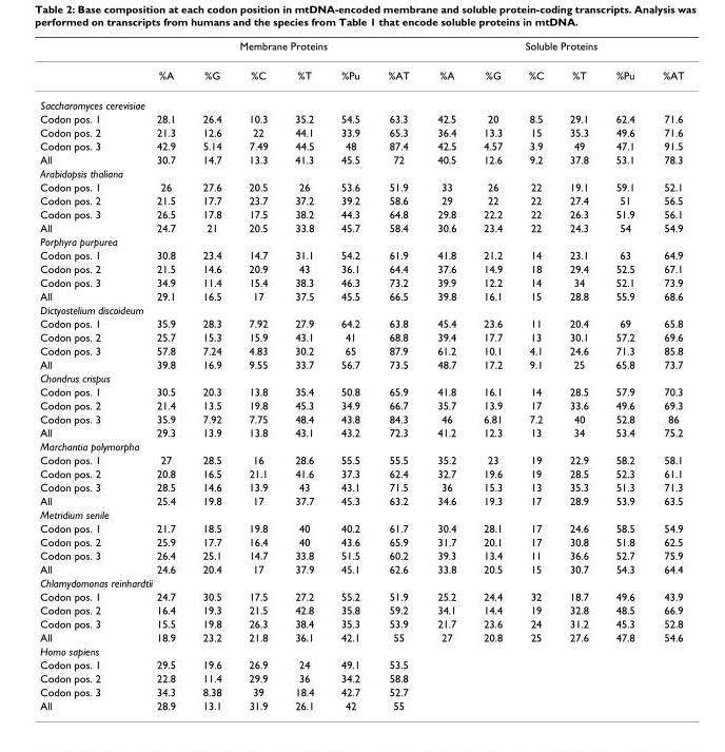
<table><thead><tr><td rowspan="2"></td><td colspan="6">Membrane Proteins</td><td colspan="6">Soluble Proteins</td></tr><tr><td>%A</td><td>%G</td><td>%C</td><td>%T</td><td>%Pu</td><td>%AT</td><td>%A</td><td>%G</td><td>%C</td><td>%T</td><td>%Pu</td><td>%AT</td></tr></thead><tbody><tr><td colspan="13">Saccharomyces cerevisiae</td></tr><tr><td>Codon pos. 1</td><td>28.1</td><td>26.4</td><td>10.3</td><td>35.2</td><td>54.5</td><td>63.3</td><td>42.5</td><td>20</td><td>8.5</td><td>29.1</td><td>62.4</td><td>71.6</td></tr><tr><td>Codon pos. 2</td><td>21.3</td><td>12.6</td><td>22</td><td>44.1</td><td>33.9</td><td>65.3</td><td>36.4</td><td>13.3</td><td>15</td><td>35.3</td><td>49.6</td><td>71.6</td></tr><tr><td>Codon pos. 3</td><td>42.9</td><td>5.14</td><td>7.49</td><td>44.5</td><td>48</td><td>87.4</td><td>42.5</td><td>4.57</td><td>3.9</td><td>49</td><td>47.1</td><td>91.5</td></tr><tr><td>All</td><td>30.7</td><td>14.7</td><td>13.3</td><td>41.3</td><td>45.5</td><td>72</td><td>40.5</td><td>12.6</td><td>9.2</td><td>37.8</td><td>53.1</td><td>78.3</td></tr><tr><td colspan="13">Arabidopsis thaliana</td></tr><tr><td>Codon pos. 1</td><td>26</td><td>27.6</td><td>20.5</td><td>26</td><td>53.6</td><td>51.9</td><td>33</td><td>26</td><td>22</td><td>19.1</td><td>59.1</td><td>52.1</td></tr><tr><td>Codon pos. 2</td><td>21.5</td><td>17.7</td><td>23.7</td><td>37.2</td><td>39.2</td><td>58.6</td><td>29</td><td>22</td><td>22</td><td>27.4</td><td>51</td><td>56.5</td></tr><tr><td>Codon pos. 3</td><td>26.5</td><td>17.8</td><td>17.5</td><td>38.2</td><td>44.3</td><td>64.8</td><td>29.8</td><td>22.2</td><td>22</td><td>26.3</td><td>51.9</td><td>56.1</td></tr><tr><td>All</td><td>24.7</td><td>21</td><td>20.5</td><td>33.8</td><td>45.7</td><td>58.4</td><td>30.6</td><td>23.4</td><td>22</td><td>24.3</td><td>54</td><td>54.9</td></tr><tr><td colspan="13">Porphyra purpurea</td></tr><tr><td>Codon pos. 1</td><td>30.8</td><td>23.4</td><td>14.7</td><td>31.1</td><td>54.2</td><td>61.9</td><td>41.8</td><td>21.2</td><td>14</td><td>23.1</td><td>63</td><td>64.9</td></tr><tr><td>Codon pos. 2</td><td>21.5</td><td>14.6</td><td>20.9</td><td>43</td><td>36.1</td><td>64.4</td><td>37.6</td><td>14.9</td><td>18</td><td>29.4</td><td>52.5</td><td>67.1</td></tr><tr><td>Codon pos. 3</td><td>34.9</td><td>11.4</td><td>15.4</td><td>38.3</td><td>46.3</td><td>73.2</td><td>39.9</td><td>12.2</td><td>14</td><td>34</td><td>52.1</td><td>73.9</td></tr><tr><td>All</td><td>29.1</td><td>16.5</td><td>17</td><td>37.5</td><td>45.5</td><td>66.5</td><td>39.8</td><td>16.1</td><td>15</td><td>28.8</td><td>55.9</td><td>68.6</td></tr><tr><td colspan="13">Dictyostelium discoideum</td></tr><tr><td>Codon pos. 1</td><td>35.9</td><td>28.3</td><td>7.92</td><td>27.9</td><td>64.2</td><td>63.8</td><td>45.4</td><td>23.6</td><td>11</td><td>20.4</td><td>69</td><td>65.8</td></tr><tr><td>Codon pos. 2</td><td>25.7</td><td>15.3</td><td>15.9</td><td>43.1</td><td>41</td><td>68.8</td><td>39.4</td><td>17.7</td><td>13</td><td>30.1</td><td>57.2</td><td>69.6</td></tr><tr><td>Codon pos. 3</td><td>57.8</td><td>7.24</td><td>4.83</td><td>30.2</td><td>65</td><td>87.9</td><td>61.2</td><td>10.1</td><td>4.1</td><td>24.6</td><td>71.3</td><td>85.8</td></tr><tr><td>All</td><td>39.8</td><td>16.9</td><td>9.55</td><td>33.7</td><td>56.7</td><td>73.5</td><td>48.7</td><td>17.2</td><td>9.1</td><td>25</td><td>65.8</td><td>73.7</td></tr><tr><td colspan="13">Chondrus crispus</td></tr><tr><td>Codon pos. 1</td><td>30.5</td><td>20.3</td><td>13.8</td><td>35.4</td><td>50.8</td><td>65.9</td><td>41.8</td><td>16.1</td><td>14</td><td>28.5</td><td>57.9</td><td>70.3</td></tr><tr><td>Codon pos. 2</td><td>21.4</td><td>13.5</td><td>19.8</td><td>45.3</td><td>34.9</td><td>66.7</td><td>35.7</td><td>13.9</td><td>17</td><td>33.6</td><td>49.6</td><td>69.3</td></tr><tr><td>Codon pos. 3</td><td>35.9</td><td>7.92</td><td>7.75</td><td>48.4</td><td>43.8</td><td>84.3</td><td>46</td><td>6.81</td><td>7.2</td><td>40</td><td>52.8</td><td>86</td></tr><tr><td>All</td><td>29.3</td><td>13.9</td><td>13.8</td><td>43.1</td><td>43.2</td><td>72.3</td><td>41.2</td><td>12.3</td><td>13</td><td>34</td><td>53.4</td><td>75.2</td></tr><tr><td colspan="13">Marchantia polymorpha</td></tr><tr><td>Codon pos. 1</td><td>27</td><td>28.5</td><td>16</td><td>28.6</td><td>55.5</td><td>55.5</td><td>35.2</td><td>23</td><td>19</td><td>22.9</td><td>58.2</td><td>58.1</td></tr><tr><td>Codon pos. 2</td><td>20.8</td><td>16.5</td><td>21.1</td><td>41.6</td><td>37.3</td><td>62.4</td><td>32.7</td><td>19.6</td><td>19</td><td>28.5</td><td>52.3</td><td>61.1</td></tr><tr><td>Codon pos. 3</td><td>28.5</td><td>14.6</td><td>13.9</td><td>43</td><td>43.1</td><td>71.5</td><td>36</td><td>15.3</td><td>13</td><td>35.3</td><td>51.3</td><td>71.3</td></tr><tr><td>All</td><td>25.4</td><td>19.8</td><td>17</td><td>37.7</td><td>45.3</td><td>63.2</td><td>34.6</td><td>19.3</td><td>17</td><td>28.9</td><td>53.9</td><td>63.5</td></tr><tr><td colspan="13">Metridium senile</td></tr><tr><td>Codon pos. 1</td><td>21.7</td><td>18.5</td><td>19.8</td><td>40</td><td>40.2</td><td>61.7</td><td>30.4</td><td>28.1</td><td>17</td><td>24.6</td><td>58.5</td><td>54.9</td></tr><tr><td>Codon pos. 2</td><td>25.9</td><td>17.7</td><td>16.4</td><td>40</td><td>43.6</td><td>65.9</td><td>31.7</td><td>20.1</td><td>17</td><td>30.8</td><td>51.8</td><td>62.5</td></tr><tr><td>Codon pos. 3</td><td>26.4</td><td>25.1</td><td>14.7</td><td>33.8</td><td>51.5</td><td>60.2</td><td>39.3</td><td>13.4</td><td>11</td><td>36.6</td><td>52.7</td><td>75.9</td></tr><tr><td>All</td><td>24.6</td><td>20.4</td><td>17</td><td>37.9</td><td>45.1</td><td>62.6</td><td>33.8</td><td>20.5</td><td>15</td><td>30.7</td><td>54.3</td><td>64.4</td></tr><tr><td colspan="13">Chlamydomonas reinhardtii</td></tr><tr><td>Codon pos. 1</td><td>24.7</td><td>30.5</td><td>17.5</td><td>27.2</td><td>55.2</td><td>51.9</td><td>25.2</td><td>24.4</td><td>32</td><td>18.7</td><td>49.6</td><td>43.9</td></tr><tr><td>Codon pos. 2</td><td>16.4</td><td>19.3</td><td>21.5</td><td>42.8</td><td>35.8</td><td>59.2</td><td>34.1</td><td>14.4</td><td>19</td><td>32.8</td><td>48.5</td><td>66.9</td></tr><tr><td>Codon pos. 3</td><td>15.5</td><td>19.8</td><td>26.3</td><td>38.4</td><td>35.3</td><td>53.9</td><td>21.7</td><td>23.6</td><td>24</td><td>31.2</td><td>45.3</td><td>52.8</td></tr><tr><td>All</td><td>18.9</td><td>23.2</td><td>21.8</td><td>36.1</td><td>42.1</td><td>55</td><td>27</td><td>20.8</td><td>25</td><td>27.6</td><td>47.8</td><td>54.6</td></tr><tr><td colspan="13">Homo sapiens</td></tr><tr><td>Codon pos. 1</td><td>29.5</td><td>19.6</td><td>26.9</td><td>24</td><td>49.1</td><td>53.5</td><td></td><td></td><td></td><td></td><td></td><td></td></tr><tr><td>Codon pos. 2</td><td>22.8</td><td>11.4</td><td>29.9</td><td>36</td><td>34.2</td><td>58.8</td><td></td><td></td><td></td><td></td><td></td><td></td></tr><tr><td>Codon pos. 3</td><td>34.3</td><td>8.38</td><td>39</td><td>18.4</td><td>42.7</td><td>52.7</td><td></td><td></td><td></td><td></td><td></td><td></td></tr><tr><td>All</td><td>28.9</td><td>13.1</td><td>31.9</td><td>26.1</td><td>42</td><td>55</td><td></td><td></td><td></td><td></td><td></td><td></td></tr></tbody></table>